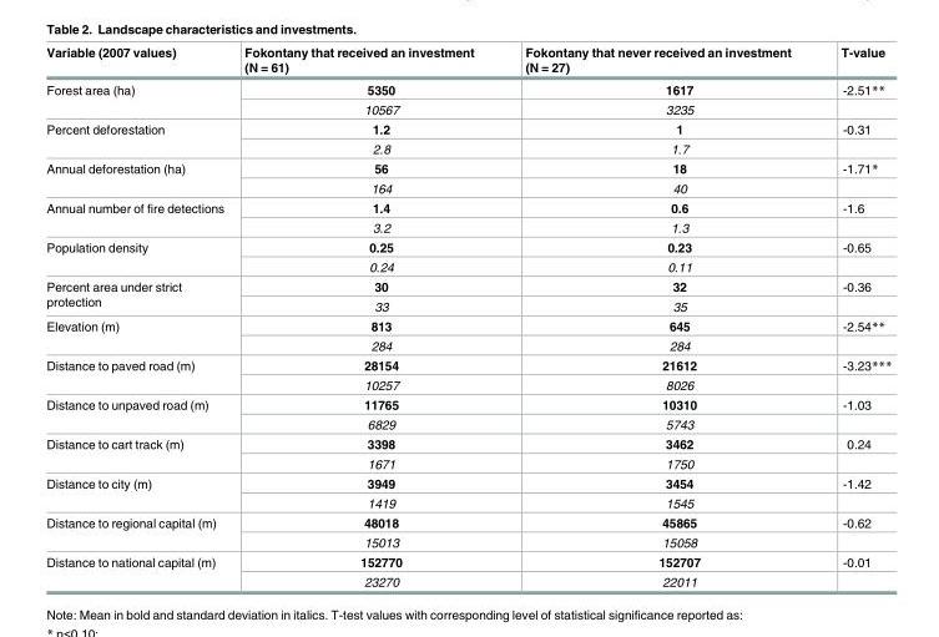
<table><thead><tr><td>Variable (2007 values)</td><td>Fokontany that received an investment (N = 61)</td><td>Fokontany that never received an investment (N = 27)</td><td>T-value</td></tr></thead><tbody><tr><td rowspan="2">Forest area (ha)</td><td>5350</td><td>1617</td><td>-2.51**</td></tr><tr><td>10567</td><td>3235</td><td></td></tr><tr><td rowspan="2">Percent deforestation</td><td>1.2</td><td>1</td><td>-0.31</td></tr><tr><td>2.8</td><td>1.7</td><td></td></tr><tr><td rowspan="2">Annual deforestation (ha)</td><td>56</td><td>18</td><td>-1.71*</td></tr><tr><td>164</td><td>40</td><td></td></tr><tr><td rowspan="2">Annual number of fire detections</td><td>1.4</td><td>0.6</td><td>-1.6</td></tr><tr><td>3.2</td><td>1.3</td><td></td></tr><tr><td rowspan="2">Population density</td><td>0.25</td><td>0.23</td><td>-0.65</td></tr><tr><td>0.24</td><td>0.11</td><td></td></tr><tr><td rowspan="2">Percent area under strict protection</td><td>30</td><td>32</td><td>-0.36</td></tr><tr><td>33</td><td>35</td><td></td></tr><tr><td rowspan="2">Elevation (m)</td><td>813</td><td>645</td><td>-2.54**</td></tr><tr><td>284</td><td>284</td><td></td></tr><tr><td rowspan="2">Distance to paved road (m)</td><td>28154</td><td>21612</td><td>-3.23***</td></tr><tr><td>10257</td><td>8026</td><td></td></tr><tr><td rowspan="2">Distance to unpaved road (m)</td><td>11765</td><td>10310</td><td>-1.03</td></tr><tr><td>6829</td><td>5743</td><td></td></tr><tr><td rowspan="2">Distance to cart track (m)</td><td>3398</td><td>3462</td><td>0.24</td></tr><tr><td>1671</td><td>1750</td><td></td></tr><tr><td rowspan="2">Distance to city (m)</td><td>3949</td><td>3454</td><td>-1.42</td></tr><tr><td>1419</td><td>1545</td><td></td></tr><tr><td rowspan="2">Distance to regional capital (m)</td><td>48018</td><td>45865</td><td>-0.62</td></tr><tr><td>15013</td><td>15058</td><td></td></tr><tr><td rowspan="2">Distance to national capital (m)</td><td>152770</td><td>152707</td><td>-0.01</td></tr><tr><td>23270</td><td>22011</td><td></td></tr></tbody></table>